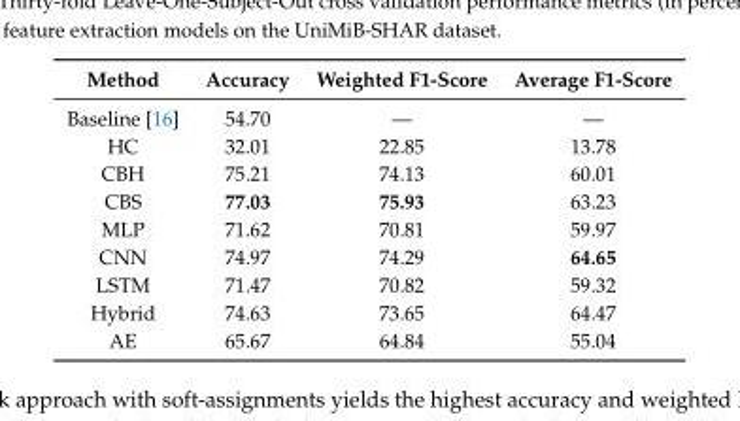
<table><thead><tr><td>Method</td><td>Accuracy</td><td>Weighted F1-Score</td><td>Average F1-Score</td></tr></thead><tbody><tr><td>Baseline [16]</td><td>54.70</td><td>—</td><td>—</td></tr><tr><td>HC</td><td>32.01</td><td>22.85</td><td>13.78</td></tr><tr><td>CBH</td><td>75.21</td><td>74.13</td><td>60.01</td></tr><tr><td>CBS</td><td>77.03</td><td>75.93</td><td>63.23</td></tr><tr><td>MLP</td><td>71.62</td><td>70.81</td><td>59.97</td></tr><tr><td>CNN</td><td>74.97</td><td>74.29</td><td>64.65</td></tr><tr><td>LSTM</td><td>71.47</td><td>70.82</td><td>59.32</td></tr><tr><td>Hybrid</td><td>74.63</td><td>73.65</td><td>64.47</td></tr><tr><td>AE</td><td>65.67</td><td>64.84</td><td>55.04</td></tr></tbody></table>